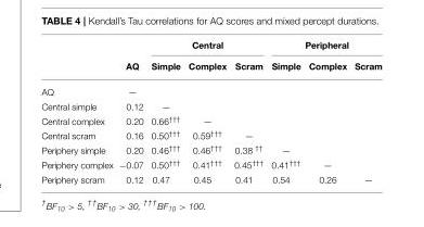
<table><thead><tr><td rowspan="2"></td><td rowspan="2">AQ</td><td colspan="3">Central</td><td colspan="3">Peripheral</td></tr><tr><td>Simple</td><td>Complex</td><td>Scram</td><td>Simple</td><td>Complex</td><td>Scram</td></tr></thead><tbody><tr><td>AQ</td><td>—</td><td></td><td></td><td></td><td></td><td></td><td></td></tr><tr><td>Central simple</td><td>0.12</td><td>—</td><td></td><td></td><td></td><td></td><td></td></tr><tr><td>Central complex</td><td>0.20</td><td>0.66<sup>†††</sup></td><td>—</td><td></td><td></td><td></td><td></td></tr><tr><td>Central scram</td><td>0.16</td><td>0.50<sup>†††</sup></td><td>0.59<sup>†††</sup></td><td>—</td><td></td><td></td><td></td></tr><tr><td>Periphery simple</td><td>0.20</td><td>0.46<sup>†††</sup></td><td>0.46<sup>†††</sup></td><td>0.38 <sup>††</sup></td><td>—</td><td></td><td></td></tr><tr><td>Periphery complex</td><td>−0.07</td><td>0.50<sup>†††</sup></td><td>0.41<sup>†††</sup></td><td>0.45<sup>†††</sup></td><td>0.41<sup>†††</sup></td><td>—</td><td></td></tr><tr><td>Periphery scram</td><td>0.12</td><td>0.47</td><td>0.45</td><td>0.41</td><td>0.54</td><td>0.26</td><td>—</td></tr></tbody></table>